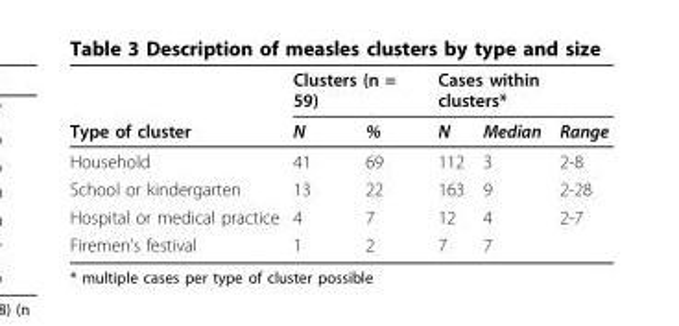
<table><thead><tr><td rowspan="2">Type of cluster</td><td colspan="2">Clusters (n = 59)</td><td colspan="3">Cases within clusters*</td></tr><tr><td>N</td><td>%</td><td>N</td><td>Median</td><td>Range</td></tr></thead><tbody><tr><td>Household</td><td>41</td><td>69</td><td>112</td><td>3</td><td>2-8</td></tr><tr><td>School or kindergarten</td><td>13</td><td>22</td><td>163</td><td>9</td><td>2-28</td></tr><tr><td>Hospital or medical practice</td><td>4</td><td>7</td><td>12</td><td>4</td><td>2-7</td></tr><tr><td>Firemen’s festival</td><td>1</td><td>2</td><td>7</td><td>7</td><td></td></tr></tbody></table>